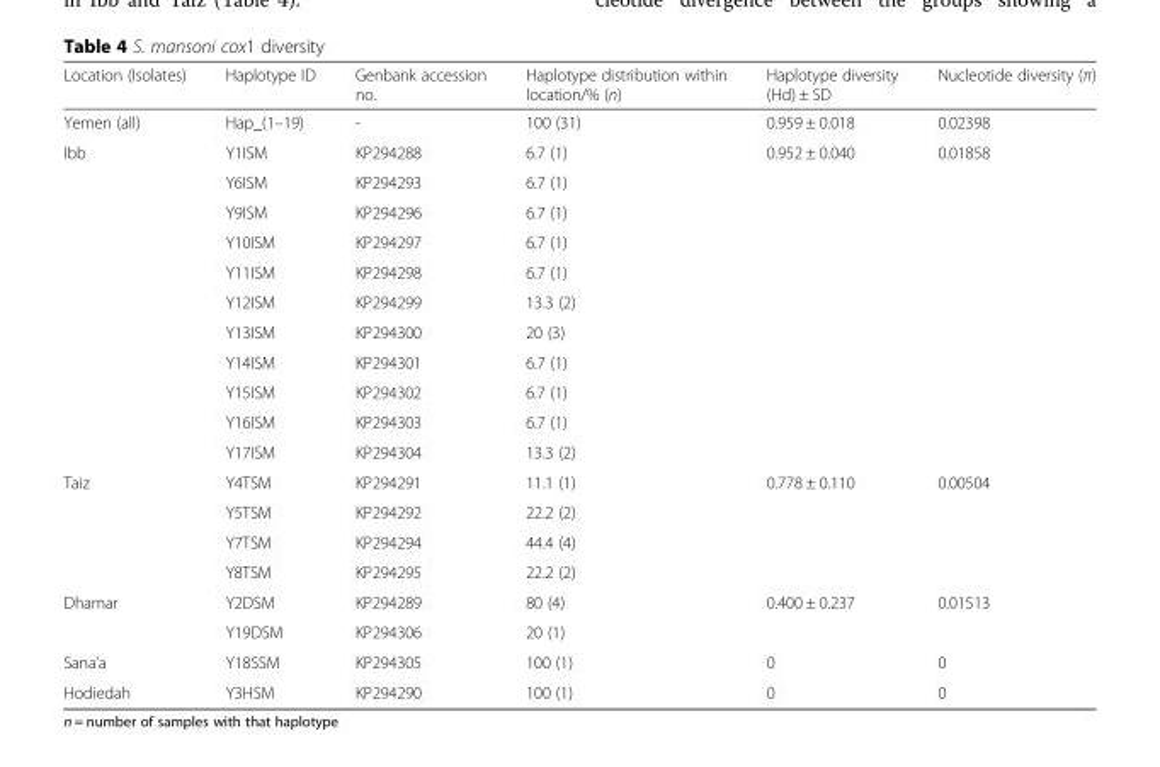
<table><thead><tr><td>Location (Isolates)</td><td>Haplotype ID</td><td>Genbank accession no.</td><td>Haplotype distribution within location/% (n)</td><td>Haplotype diversity (Hd) ± SD</td><td>Nucleotide diversity (π)</td></tr></thead><tbody><tr><td>Yemen (all)</td><td>Hap_(1–19)</td><td>-</td><td>100 (31)</td><td>0.959 ± 0.018</td><td>0.02398</td></tr><tr><td rowspan="11">Ibb</td><td>Y1ISM</td><td>KP294288</td><td>6.7 (1)</td><td rowspan="11">0.952 ± 0.040</td><td rowspan="11">0.01858</td></tr><tr><td>Y6ISM</td><td>KP294293</td><td>6.7 (1)</td></tr><tr><td>Y9ISM</td><td>KP294296</td><td>6.7 (1)</td></tr><tr><td>Y10ISM</td><td>KP294297</td><td>6.7 (1)</td></tr><tr><td>Y11ISM</td><td>KP294298</td><td>6.7 (1)</td></tr><tr><td>Y12ISM</td><td>KP294299</td><td>13.3 (2)</td></tr><tr><td>Y13ISM</td><td>KP294300</td><td>20 (3)</td></tr><tr><td>Y14ISM</td><td>KP294301</td><td>6.7 (1)</td></tr><tr><td>Y15ISM</td><td>KP294302</td><td>6.7 (1)</td></tr><tr><td>Y16ISM</td><td>KP294303</td><td>6.7 (1)</td></tr><tr><td>Y17ISM</td><td>KP294304</td><td>13.3 (2)</td></tr><tr><td rowspan="4">Taiz</td><td>Y4TSM</td><td>KP294291</td><td>11.1 (1)</td><td rowspan="4">0.778 ± 0.110</td><td rowspan="4">0.00504</td></tr><tr><td>Y5TSM</td><td>KP294292</td><td>22.2 (2)</td></tr><tr><td>Y7TSM</td><td>KP294294</td><td>44.4 (4)</td></tr><tr><td>Y8TSM</td><td>KP294295</td><td>22.2 (2)</td></tr><tr><td rowspan="2">Dhamar</td><td>Y2DSM</td><td>KP294289</td><td>80 (4)</td><td rowspan="2">0.400 ± 0.237</td><td rowspan="2">0.01513</td></tr><tr><td>Y19DSM</td><td>KP294306</td><td>20 (1)</td></tr><tr><td>Sana’a</td><td>Y18SSM</td><td>KP294305</td><td>100 (1)</td><td>0</td><td>0</td></tr><tr><td>Hodiedah</td><td>Y3HSM</td><td>KP294290</td><td>100 (1)</td><td>0</td><td>0</td></tr></tbody></table>